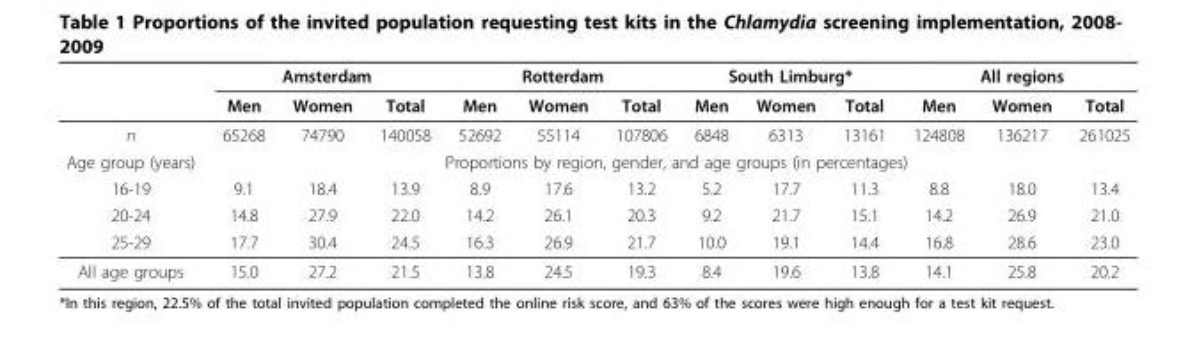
<table><thead><tr><td rowspan="2"></td><td colspan="3">Amsterdam</td><td colspan="3">Rotterdam</td><td colspan="3">South Limburg*</td><td colspan="3">All regions</td></tr><tr><td>Men</td><td>Women</td><td>Total</td><td>Men</td><td>Women</td><td>Total</td><td>Men</td><td>Women</td><td>Total</td><td>Men</td><td>Women</td><td>Total</td></tr></thead><tbody><tr><td>n</td><td>65268</td><td>74790</td><td>140058</td><td>52692</td><td>55114</td><td>107806</td><td>6848</td><td>6313</td><td>13161</td><td>124808</td><td>136217</td><td>261025</td></tr><tr><td>Age group (years)</td><td colspan="12">Proportions by region, gender, and age groups (in percentages)</td></tr><tr><td>16-19</td><td>9.1</td><td>18.4</td><td>13.9</td><td>8.9</td><td>17.6</td><td>13.2</td><td>5.2</td><td>17.7</td><td>11.3</td><td>8.8</td><td>18.0</td><td>13.4</td></tr><tr><td>20-24</td><td>14.8</td><td>27.9</td><td>22.0</td><td>14.2</td><td>26.1</td><td>20.3</td><td>9.2</td><td>21.7</td><td>15.1</td><td>14.2</td><td>26.9</td><td>21.0</td></tr><tr><td>25-29</td><td>17.7</td><td>30.4</td><td>24.5</td><td>16.3</td><td>26.9</td><td>21.7</td><td>10.0</td><td>19.1</td><td>14.4</td><td>16.8</td><td>28.6</td><td>23.0</td></tr><tr><td>All age groups</td><td>15.0</td><td>27.2</td><td>21.5</td><td>13.8</td><td>24.5</td><td>19.3</td><td>8.4</td><td>19.6</td><td>13.8</td><td>14.1</td><td>25.8</td><td>20.2</td></tr></tbody></table>